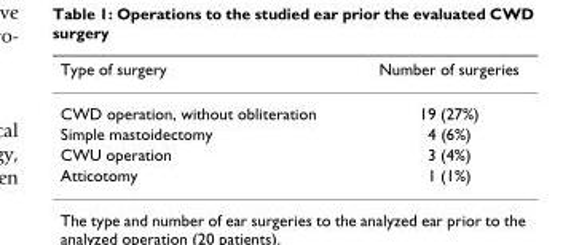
<table><thead><tr><td>Type of surgery</td><td>Number of surgeries</td></tr></thead><tbody><tr><td>CWD operation, without obliteration</td><td>19 (27%)</td></tr><tr><td>Simple mastoidectomy</td><td>4 (6%)</td></tr><tr><td>CWU operation</td><td>3 (4%)</td></tr><tr><td>Atticotomy</td><td>1 (1%)</td></tr></tbody></table>